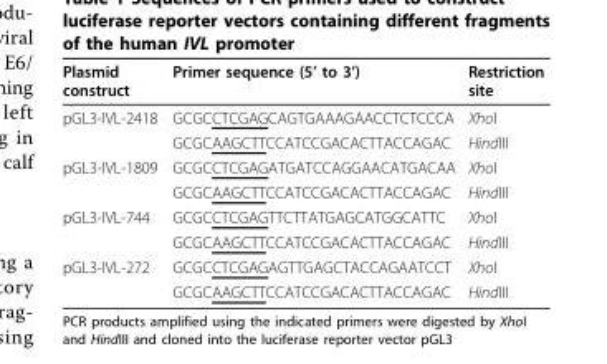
<table><thead><tr><td>Plasmid construct</td><td>Primer sequence (5’ to 3’)</td><td>Restriction site</td></tr></thead><tbody><tr><td rowspan="2">pGL3-IVL-2418</td><td>GCGCCTCGAGCAGTGAAAGAACCTCTCCCA</td><td>XhoI</td></tr><tr><td>GCGCAAGCTTCCATCCGACACTTACCAGAC</td><td>HindIII</td></tr><tr><td rowspan="2">pGL3-IVL-1809</td><td>GCGCCTCGAGATGATCCAGGAACATGACAA</td><td>XhoI</td></tr><tr><td>GCGCAAGCTTCCATCCGACACTTACCAGAC</td><td>HindIII</td></tr><tr><td rowspan="2">pGL3-IVL-744</td><td>GCGCCTCGAGTTCTTATGAGCATGGCATTC</td><td>XhoI</td></tr><tr><td>GCGCAAGCTTCCATCCGACACTTACCAGAC</td><td>HindIII</td></tr><tr><td rowspan="2">pGL3-IVL-272</td><td>GCGCCTCGAGAGTTGAGCTACCAGAATCCT</td><td>XhoI</td></tr><tr><td>GCGCAAGCTTCCATCCGACACTTACCAGAC</td><td>HindIII</td></tr></tbody></table>